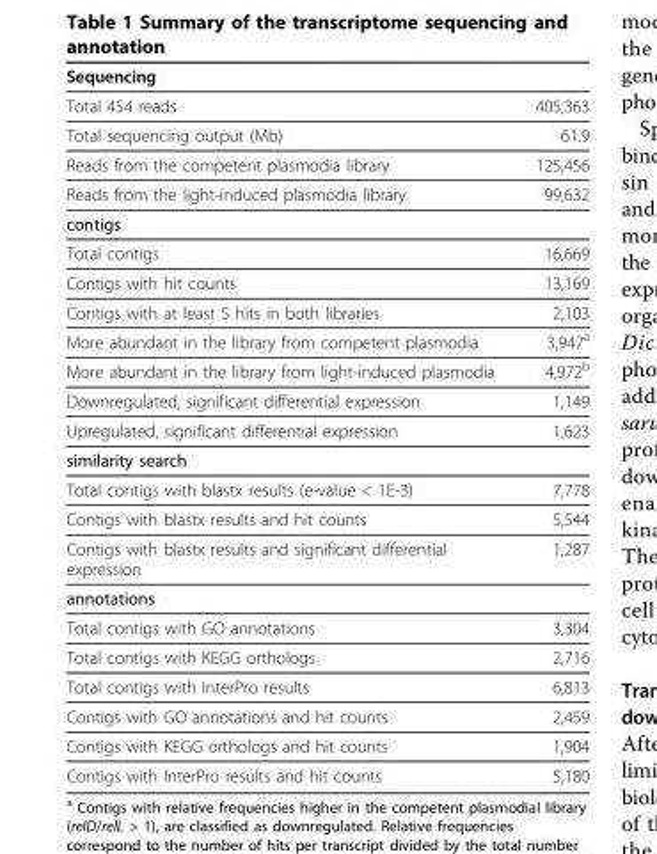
<table><thead><tr><td>Sequencing</td><td></td></tr></thead><tbody><tr><td>Total 454 reads</td><td>405,363</td></tr><tr><td>Total sequencing output (Mb)</td><td>61.9</td></tr><tr><td>Reads from the competent plasmodia library</td><td>125,456</td></tr><tr><td>Reads from the light-induced plasmodia library</td><td>99,632</td></tr><tr><td colspan="2">contigs</td></tr><tr><td>Total contigs</td><td>16,669</td></tr><tr><td>Contigs with hit counts</td><td>13,169</td></tr><tr><td>Contigs with at least 5 hits in both libraries</td><td>2,103</td></tr><tr><td>More abundant in the library from competent plasmodia</td><td>3,947<sup>a</sup></td></tr><tr><td>More abundant in the library from light-induced plasmodia</td><td>4,972<sup>b</sup></td></tr><tr><td>Downregulated, significant differential expression</td><td>1,149</td></tr><tr><td>Upregulated, significant differential expression</td><td>1,623</td></tr><tr><td colspan="2">similarity search</td></tr><tr><td>Total contigs with blastx results (e-value &lt; 1E-3)</td><td>7,778</td></tr><tr><td>Contigs with blastx results and hit counts</td><td>5,544</td></tr><tr><td>Contigs with blastx results and significant differential expression</td><td>1,287</td></tr><tr><td colspan="2">annotations</td></tr><tr><td>Total contigs with GO annotations</td><td>3,304</td></tr><tr><td>Total contigs with KEGG orthologs</td><td>2,716</td></tr><tr><td>Total contigs with InterPro results</td><td>6,813</td></tr><tr><td>Contigs with GO annotations and hit counts</td><td>2,459</td></tr><tr><td>Contigs with KEGG orthologs and hit counts</td><td>1,904</td></tr><tr><td>Contigs with InterPro results and hit counts</td><td>5,180</td></tr></tbody></table>